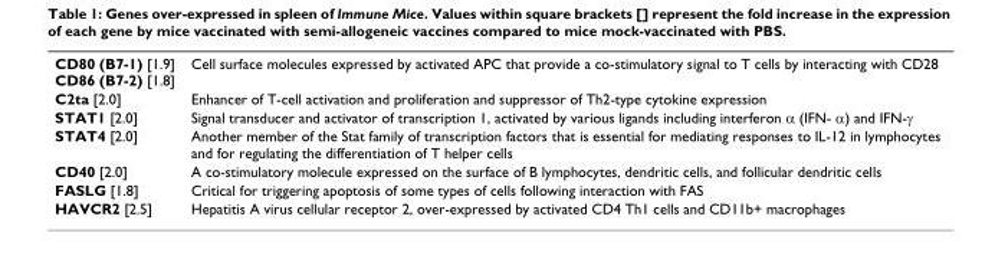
<table><tbody><tr><td>CD80 (B7-1) [1.9] CD86 (B7-2) [1.8]</td><td>Cell surface molecules expressed by activated APC that provide a co-stimulatory signal to T cells by interacting with CD28</td></tr><tr><td>C2ta [2.0]</td><td>Enhancer of T-cell activation and proliferation and suppressor of Th2-type cytokine expression</td></tr><tr><td>STAT1 [2.0]</td><td>Signal transducer and activator of transcription 1, activated by various ligands including interferon α (IFN- α) and IFN-γ</td></tr><tr><td>STAT4 [2.0]</td><td>Another member of the Stat family of transcription factors that is essential for mediating responses to IL-12 in lymphocytes and for regulating the differentiation of T helper cells</td></tr><tr><td>CD40 [2.0]</td><td>A co-stimulatory molecule expressed on the surface of B lymphocytes, dendritic cells, and follicular dendritic cells</td></tr><tr><td>FASLG [1.8]</td><td>Critical for triggering apoptosis of some types of cells following interaction with FAS</td></tr><tr><td>HAVCR2 [2.5]</td><td>Hepatitis A virus cellular receptor 2, over-expressed by activated CD4 Th1 cells and CD11b+ macrophages</td></tr></tbody></table>